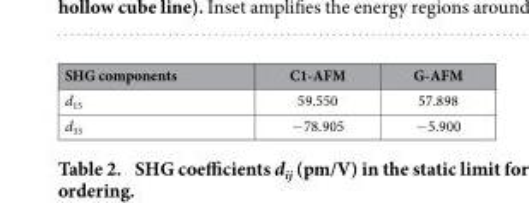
<table><thead><tr><td>SHG components</td><td>C1-AFM</td><td>G-AFM</td></tr></thead><tbody><tr><td>d<sub>15</sub></td><td>59.550</td><td>57.898</td></tr><tr><td>d<sub>33</sub></td><td>− 78.905</td><td>− 5.900</td></tr></tbody></table>